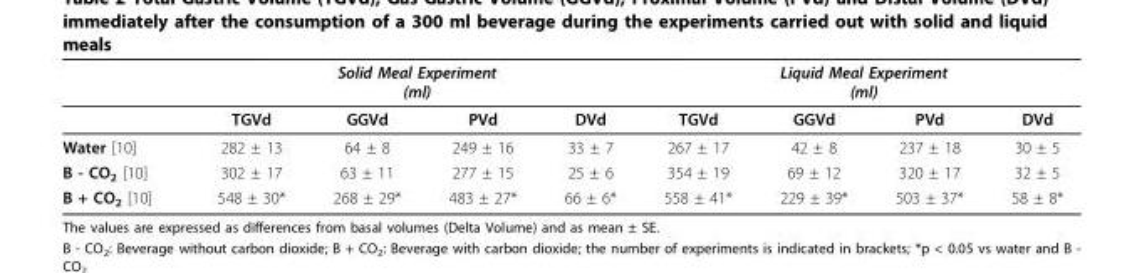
<table><thead><tr><td rowspan="2"></td><td colspan="4">Solid Meal Experiment (ml)</td><td colspan="4">Liquid Meal Experiment (ml)</td></tr><tr><td>TGVd</td><td>GGVd</td><td>PVd</td><td>DVd</td><td>TGVd</td><td>GGVd</td><td>PVd</td><td>DVd</td></tr></thead><tbody><tr><td>Water [10]</td><td>282 ± 13</td><td>64 ± 8</td><td>249 ± 16</td><td>33 ± 7</td><td>267 ± 17</td><td>42 ± 8</td><td>237 ± 18</td><td>30 ± 5</td></tr><tr><td>B - CO<sub>2</sub> [10]</td><td>302 ± 17</td><td>63 ± 11</td><td>277 ± 15</td><td>25 ± 6</td><td>354 ± 19</td><td>69 ± 12</td><td>320 ± 17</td><td>32 ± 5</td></tr><tr><td>B + CO<sub>2</sub> [10]</td><td>548 ± 30*</td><td>268 ± 29*</td><td>483 ± 27*</td><td>66 ± 6*</td><td>558 ± 41*</td><td>229 ± 39*</td><td>503 ± 37*</td><td>58 ± 8*</td></tr></tbody></table>